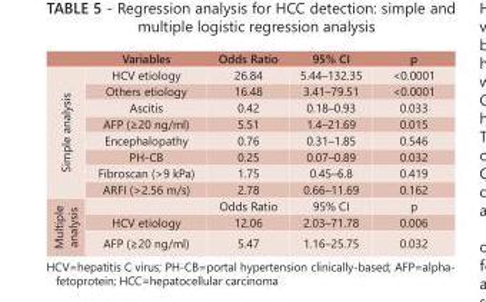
<table><thead><tr><td></td><td>Variables</td><td>Odds Ratio</td><td>95% CI</td><td>p</td></tr></thead><tbody><tr><td rowspan="8">Simple analysis</td><td>HCV etiology</td><td>26.84</td><td>5.44–132.35</td><td>&lt;0.0001</td></tr><tr><td>Others etiology</td><td>16.48</td><td>3.41–79.51</td><td>&lt;0.0001</td></tr><tr><td>Ascitis</td><td>0.42</td><td>0.18–0.93</td><td>0.033</td></tr><tr><td>AFP (≥20 ng/ml)</td><td>5.51</td><td>1.4–21.69</td><td>0.015</td></tr><tr><td>Encephalopathy</td><td>0.76</td><td>0.31–1.85</td><td>0.546</td></tr><tr><td>PH-CB</td><td>0.25</td><td>0.07–0.89</td><td>0.032</td></tr><tr><td>Fibroscan (&gt;9 kPa)</td><td>1.75</td><td>0.45–6.8</td><td>0.419</td></tr><tr><td>ARFI (&gt;2.56 m/s)</td><td>2.78</td><td>0.66–11.69</td><td>0.162</td></tr><tr><td rowspan="3">Multiple analysis</td><td></td><td>Odds Ratio</td><td>95% CI</td><td>p</td></tr><tr><td>HCV etiology</td><td>12.06</td><td>2.03–71.78</td><td>0.006</td></tr><tr><td>AFP (≥20 ng/ml)</td><td>5.47</td><td>1.16–25.75</td><td>0.032</td></tr></tbody></table>